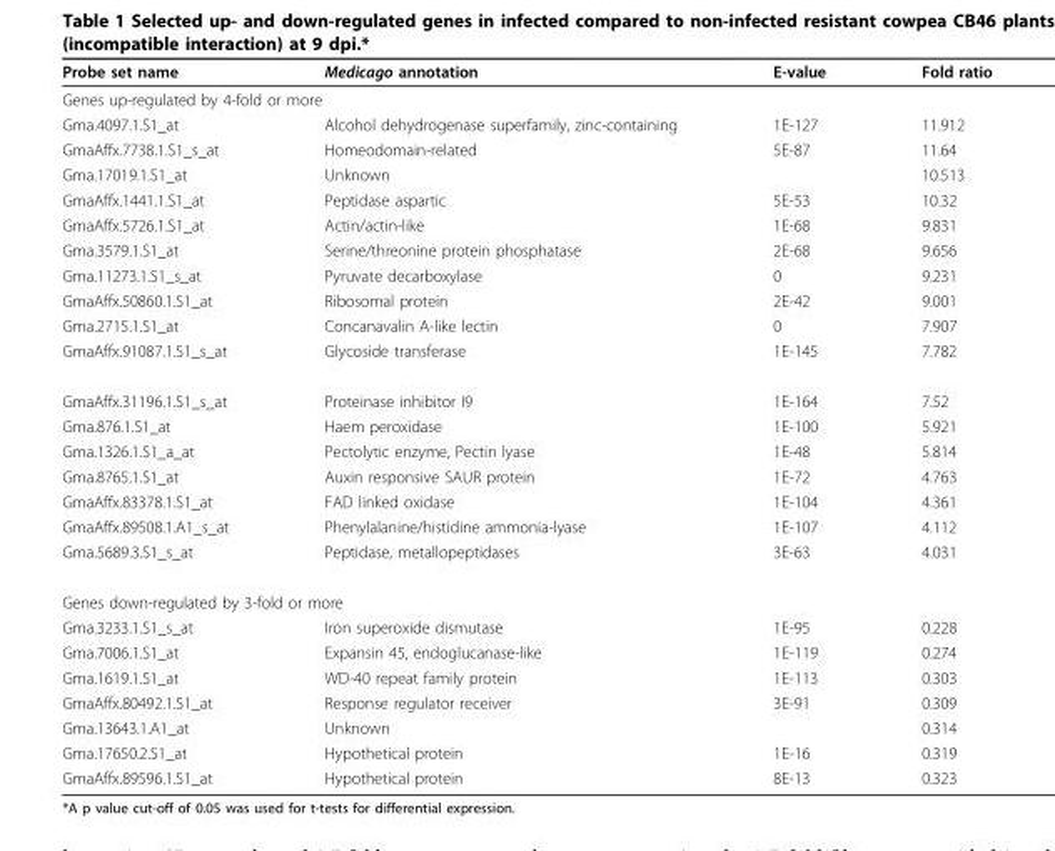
<table><thead><tr><td>Probe set name</td><td>Medicago annotation</td><td>E-value</td><td>Fold ratio</td></tr></thead><tbody><tr><td colspan="4">Genes up-regulated by 4-fold or more</td></tr><tr><td>Gma.4097.1.S1_at</td><td>Alcohol dehydrogenase superfamily, zinc-containing</td><td>1E-127</td><td>11.912</td></tr><tr><td>GmaAffx.7738.1.S1_s_at</td><td>Homeodomain-related</td><td>5E-87</td><td>11.64</td></tr><tr><td>Gma.17019.1.S1_at</td><td>Unknown</td><td></td><td>10.513</td></tr><tr><td>GmaAffx.1441.1.S1_at</td><td>Peptidase aspartic</td><td>5E-53</td><td>10.32</td></tr><tr><td>GmaAffx.5726.1.S1_at</td><td>Actin/actin-like</td><td>1E-68</td><td>9.831</td></tr><tr><td>Gma.3579.1.S1_at</td><td>Serine/threonine protein phosphatase</td><td>2E-68</td><td>9.656</td></tr><tr><td>Gma.11273.1.S1_s_at</td><td>Pyruvate decarboxylase</td><td>0</td><td>9.231</td></tr><tr><td>GmaAffx.50860.1.S1_at</td><td>Ribosomal protein</td><td>2E-42</td><td>9.001</td></tr><tr><td>Gma.2715.1.S1_at</td><td>Concanavalin A-like lectin</td><td>0</td><td>7.907</td></tr><tr><td>GmaAffx.91087.1.S1_s_at</td><td>Glycoside transferase</td><td>1E-145</td><td>7.782</td></tr><tr><td>GmaAffx.31196.1.S1_s_at</td><td>Proteinase inhibitor I9</td><td>1E-164</td><td>7.52</td></tr><tr><td>Gma.876.1.S1_at</td><td>Haem peroxidase</td><td>1E-100</td><td>5.921</td></tr><tr><td>Gma.1326.1.S1_a_at</td><td>Pectolytic enzyme, Pectin lyase</td><td>1E-48</td><td>5.814</td></tr><tr><td>Gma.8765.1.S1_at</td><td>Auxin responsive SAUR protein</td><td>1E-72</td><td>4.763</td></tr><tr><td>GmaAffx.83378.1.S1_at</td><td>FAD linked oxidase</td><td>1E-104</td><td>4.361</td></tr><tr><td>GmaAffx.89508.1.A1_s_at</td><td>Phenylalanine/histidine ammonia-lyase</td><td>1E-107</td><td>4.112</td></tr><tr><td>Gma.5689.3.S1_s_at</td><td>Peptidase, metallopeptidases</td><td>3E-63</td><td>4.031</td></tr><tr><td colspan="4">Genes down-regulated by 3-fold or more</td></tr><tr><td>Gma.3233.1.S1_s_at</td><td>Iron superoxide dismutase</td><td>1E-95</td><td>0.228</td></tr><tr><td>Gma.7006.1.S1_at</td><td>Expansin 45, endoglucanase-like</td><td>1E-119</td><td>0.274</td></tr><tr><td>Gma.1619.1.S1_at</td><td>WD-40 repeat family protein</td><td>1E-113</td><td>0.303</td></tr><tr><td>GmaAffx.80492.1.S1_at</td><td>Response regulator receiver</td><td>3E-91</td><td>0.309</td></tr><tr><td>Gma.13643.1.A1_at</td><td>Unknown</td><td></td><td>0.314</td></tr><tr><td>Gma.17650.2.S1_at</td><td>Hypothetical protein</td><td>1E-16</td><td>0.319</td></tr><tr><td>GmaAffx.89596.1.S1_at</td><td>Hypothetical protein</td><td>8E-13</td><td>0.323</td></tr></tbody></table>